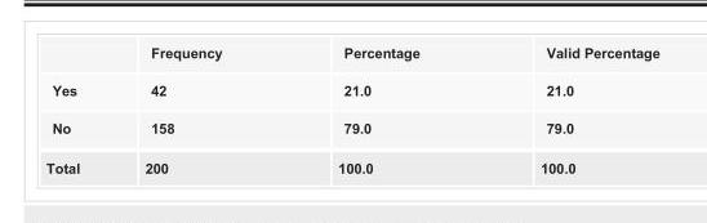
<table><thead><tr><td rowspan="3">Yes No</td><td rowspan="3">Frequency 42 158</td><td rowspan="3">Percentage 21.0 79.0</td><td rowspan="3">Valid Percentage 21.0 79.0</td></tr><tr></tr><tr></tr></thead><tbody><tr><td>Total</td><td>200</td><td>100.0</td><td>100.0</td></tr></tbody></table>